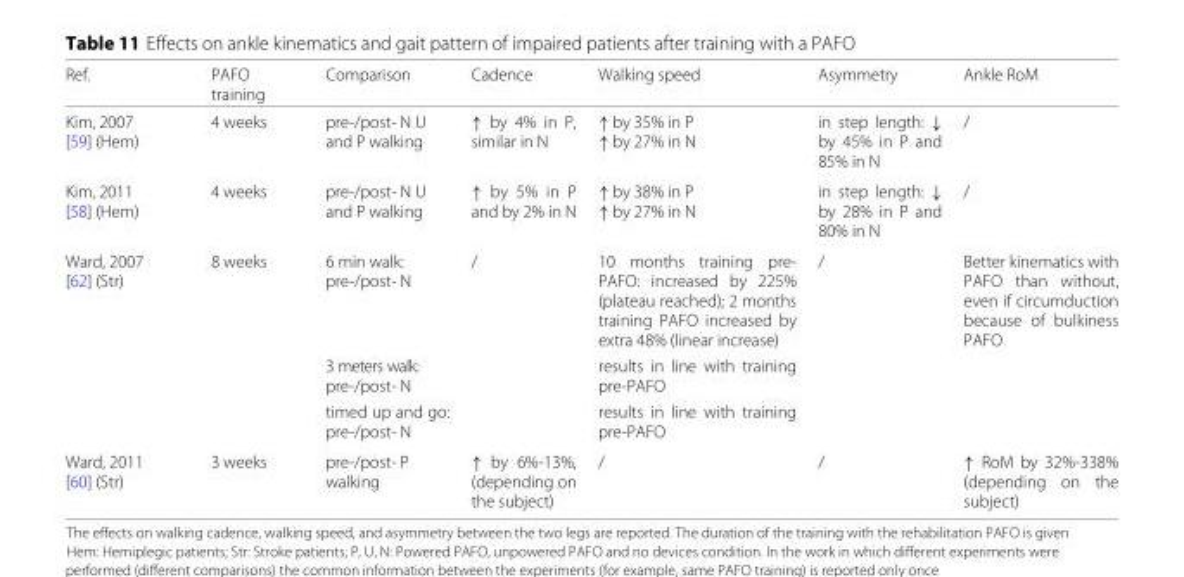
<table><thead><tr><td>Ref.</td><td>PAFO training</td><td>Comparison</td><td>Cadence</td><td>Walking speed</td><td>Asymmetry</td><td>Ankle RoM</td></tr></thead><tbody><tr><td>Kim, 2007 [59] (Hem)</td><td>4 weeks</td><td>pre-/post- N U and P walking</td><td>↑ by 4% in P, similar in N</td><td>↑ by 35% in P ↑ by 27% in N</td><td>in step length: ↓ by 45% in P and 85% in N</td><td>/</td></tr><tr><td>Kim, 2011 [58] (Hem)</td><td>4 weeks</td><td>pre-/post- N U and P walking</td><td>↑ by 5% in P and by 2% in N</td><td>↑ by 38% in P ↑ by 27% in N</td><td>in step length: ↓ by 28% in P and 80% in N</td><td>/</td></tr><tr><td rowspan="3">Ward, 2007 [62] (Str)</td><td>8 weeks</td><td>6 min walk: pre-/post- N</td><td>/</td><td>10 months training pre- PAFO: increased by 225% (plateau reached); 2 months training PAFO increased by extra 48% (linear increase)</td><td>/</td><td>Better kinematics with PAFO than without, even if circumduction because of bulkiness PAFO</td></tr><tr><td></td><td>3 meters walk: pre-/post- N</td><td></td><td>results in line with training pre-PAFO</td><td></td><td></td></tr><tr><td></td><td>timed up and go: pre-/post- N</td><td></td><td>results in line with training pre-PAFO</td><td></td><td></td></tr><tr><td>Ward, 2011 [60] (Str)</td><td>3 weeks</td><td>pre-/post- P walking</td><td>↑ by 6%-13%, (depending on the subject)</td><td>/</td><td>/</td><td>↑ RoM by 32%-338% (depending on the subject)</td></tr></tbody></table>